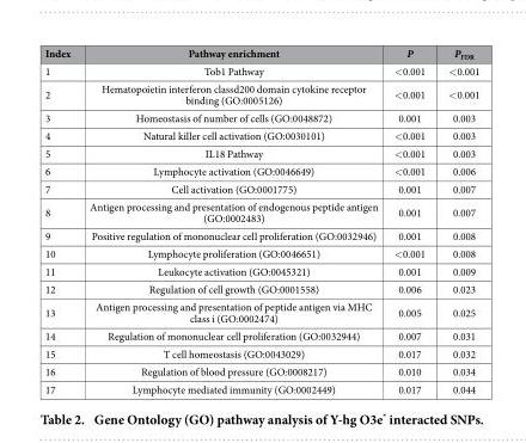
<table><thead><tr><td>Index</td><td>Pathway enrichment</td><td>P</td><td>P<sub>FDR</sub></td></tr></thead><tbody><tr><td>1</td><td>Tob1 Pathway</td><td>&lt; 0.001</td><td>&lt; 0.001</td></tr><tr><td>2</td><td>Hematopoietin interferon classd200 domain cytokine receptor binding (GO:0005126)</td><td>&lt; 0.001</td><td>&lt; 0.001</td></tr><tr><td>3</td><td>Homeostasis of number of cells (GO:0048872)</td><td>0.001</td><td>0.003</td></tr><tr><td>4</td><td>Natural killer cell activation (GO:0030101)</td><td>&lt; 0.001</td><td>0.003</td></tr><tr><td>5</td><td>IL18 Pathway</td><td>&lt; 0.001</td><td>0.003</td></tr><tr><td>6</td><td>Lymphocyte activation (GO:0046649)</td><td>&lt; 0.001</td><td>0.006</td></tr><tr><td>7</td><td>Cell activation (GO:0001775)</td><td>0.001</td><td>0.007</td></tr><tr><td>8</td><td>Antigen processing and presentation of endogenous peptide antigen (GO:0002483)</td><td>0.001</td><td>0.007</td></tr><tr><td>9</td><td>Positive regulation of mononuclear cell proliferation (GO:0032946)</td><td>0.001</td><td>0.008</td></tr><tr><td>10</td><td>Lymphocyte proliferation (GO:0046651)</td><td>&lt; 0.001</td><td>0.008</td></tr><tr><td>11</td><td>Leukocyte activation (GO:0045321)</td><td>0.001</td><td>0.009</td></tr><tr><td>12</td><td>Regulation of cell growth (GO:0001558)</td><td>0.006</td><td>0.023</td></tr><tr><td>13</td><td>Antigen processing and presentation of peptide antigen via MHC class i (GO:0002474)</td><td>0.005</td><td>0.025</td></tr><tr><td>14</td><td>Regulation of mononuclear cell proliferation (GO:0032944)</td><td>0.007</td><td>0.031</td></tr><tr><td>15</td><td>T cell homeostasis (GO:0043029)</td><td>0.017</td><td>0.032</td></tr><tr><td>16</td><td>Regulation of blood pressure (GO:0008217)</td><td>0.010</td><td>0.034</td></tr><tr><td>17</td><td>Lymphocyte mediated immunity (GO:0002449)</td><td>0.017</td><td>0.044</td></tr></tbody></table>